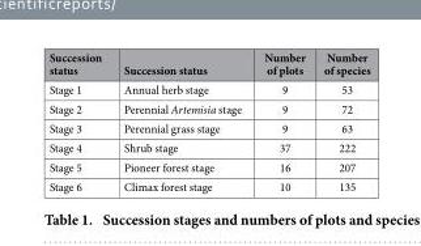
<table><thead><tr><td>Succession status</td><td>Succession status</td><td>Number of plots</td><td>Number of species</td></tr></thead><tbody><tr><td>Stage 1</td><td>Annual herb stage</td><td>9</td><td>53</td></tr><tr><td>Stage 2</td><td>Perennial Artemisia stage</td><td>9</td><td>72</td></tr><tr><td>Stage 3</td><td>Perennial grass stage</td><td>9</td><td>63</td></tr><tr><td>Stage 4</td><td>Shrub stage</td><td>37</td><td>222</td></tr><tr><td>Stage 5</td><td>Pioneer forest stage</td><td>16</td><td>207</td></tr><tr><td>Stage 6</td><td>Climax forest stage</td><td>10</td><td>135</td></tr></tbody></table>